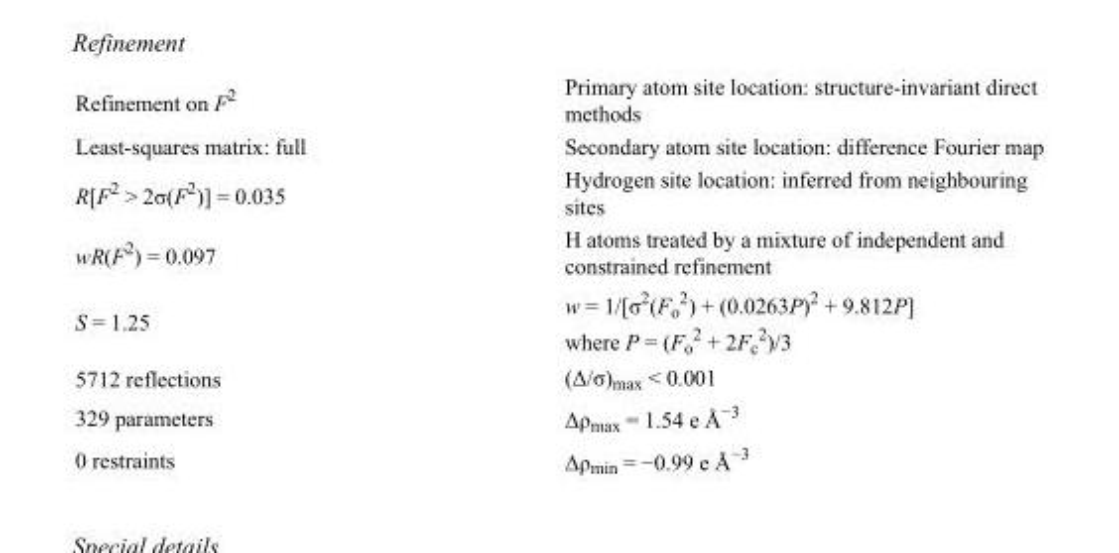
<table><tbody><tr><td>Refinement on F<sup>2</sup></td><td>Primary atom site location: structure-invariant direct methods</td></tr><tr><td>Least-squares matrix: full</td><td>Secondary atom site location: difference Fourier map</td></tr><tr><td>R[F<sup>2</sup> &gt; 2σ(F<sup>2</sup>)] = 0.035</td><td>Hydrogen site location: inferred from neighbouring sites</td></tr><tr><td>wR(F<sup>2</sup>) = 0.097</td><td>H atoms treated by a mixture of independent and constrained refinement</td></tr><tr><td>S = 1.25</td><td>w = 1/[σ<sup>2</sup>(F<sub>o</sub> <sup>2</sup>) + (0.0263P)<sup>2</sup> + 9.812P] where P = (F<sub>o</sub> <sup>2</sup> + 2F<sub>c</sub> <sup>2</sup>)/3</td></tr><tr><td>5712 reflections</td><td>(Δ/σ)<sub>max</sub> &lt; 0.001</td></tr><tr><td>329 parameters</td><td>Δρ<sub>max</sub> = 1.54 e Å<sup>−3</sup></td></tr><tr><td>0 restraints</td><td>Δρ<sub>min</sub> = −0.99 e Å<sup>−3</sup></td></tr></tbody></table>